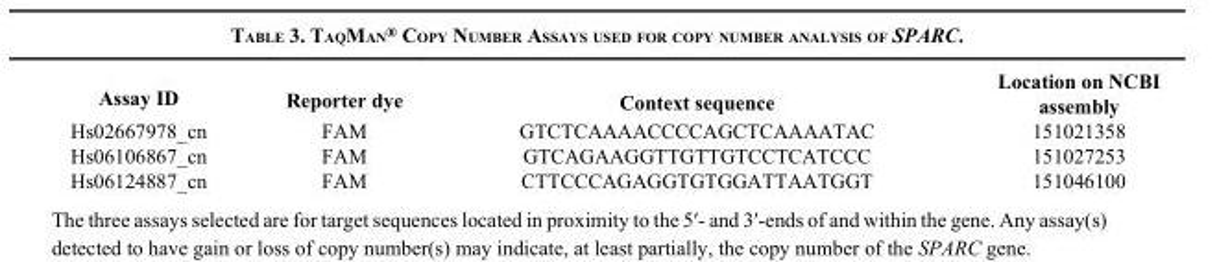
<table><thead><tr><td>Assay ID</td><td>Reporter dye</td><td>Context sequence</td><td>Location on NCBI assembly</td></tr></thead><tbody><tr><td>Hs02667978_cn</td><td>FAM</td><td>GTCTCAAAACCCCAGCTCAAAATAC</td><td>151021358</td></tr><tr><td>Hs06106867_cn</td><td>FAM</td><td>GTCAGAAGGTTGTTGTCCTCATCCC</td><td>151027253</td></tr><tr><td>Hs06124887_cn</td><td>FAM</td><td>CTTCCCAGAGGTGTGGATTAATGGT</td><td>151046100</td></tr></tbody></table>